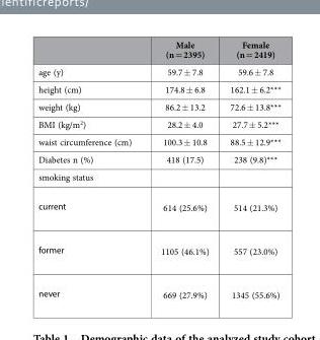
<table><thead><tr><td></td><td>Male (n = 2395)</td><td>Female (n = 2419)</td></tr></thead><tbody><tr><td>age (y)</td><td>59.7 ± 7.8</td><td>59.6 ± 7.8</td></tr><tr><td>height (cm)</td><td>174.8 ± 6.8</td><td>162.1 ± 6.2***</td></tr><tr><td>weight (kg)</td><td>86.2 ± 13.2</td><td>72.6 ± 13.8***</td></tr><tr><td>BMI (kg/m<sup>2</sup>)</td><td>28.2 ± 4.0</td><td>27.7 ± 5.2***</td></tr><tr><td>waist circumference (cm)</td><td>100.3 ± 10.8</td><td>88.5 ± 12.9***</td></tr><tr><td>Diabetes n (%)</td><td>418 (17.5)</td><td>238 (9.8)***</td></tr><tr><td colspan="3">smoking status</td></tr><tr><td>current</td><td>614 (25.6%)</td><td>514 (21.3%)</td></tr><tr><td>former</td><td>1105 (46.1%)</td><td>557 (23.0%)</td></tr><tr><td>never</td><td>669 (27.9%)</td><td>1345 (55.6%)</td></tr></tbody></table>